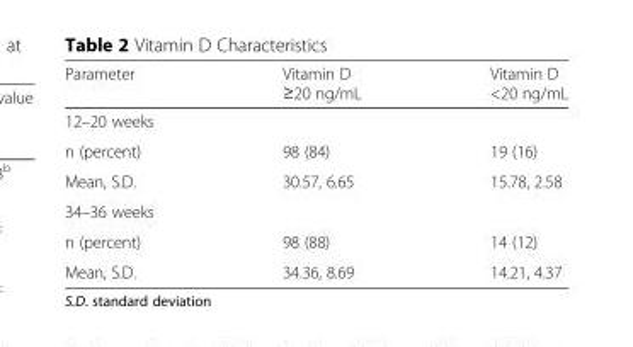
<table><thead><tr><td>Parameter</td><td>Vitamin D ≥20 ng/mL</td><td>Vitamin D &lt;20 ng/mL</td></tr></thead><tbody><tr><td colspan="3">12–20 weeks</td></tr><tr><td>n (percent)</td><td>98 (84)</td><td>19 (16)</td></tr><tr><td>Mean, S.D.</td><td>30.57, 6.65</td><td>15.78, 2.58</td></tr><tr><td colspan="3">34–36 weeks</td></tr><tr><td>n (percent)</td><td>98 (88)</td><td>14 (12)</td></tr><tr><td>Mean, S.D.</td><td>34.36, 8.69</td><td>14.21, 4.37</td></tr></tbody></table>